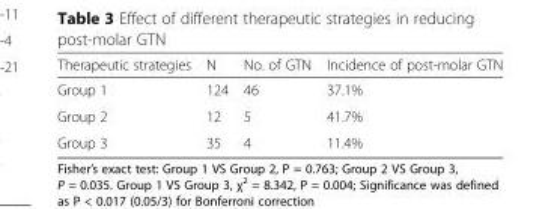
<table><thead><tr><td>Therapeutic strategies</td><td>N</td><td>No. of GTN</td><td>Incidence of post-molar GTN</td></tr></thead><tbody><tr><td>Group 1</td><td>124</td><td>46</td><td>37.1%</td></tr><tr><td>Group 2</td><td>12</td><td>5</td><td>41.7%</td></tr><tr><td>Group 3</td><td>35</td><td>4</td><td>11.4%</td></tr></tbody></table>